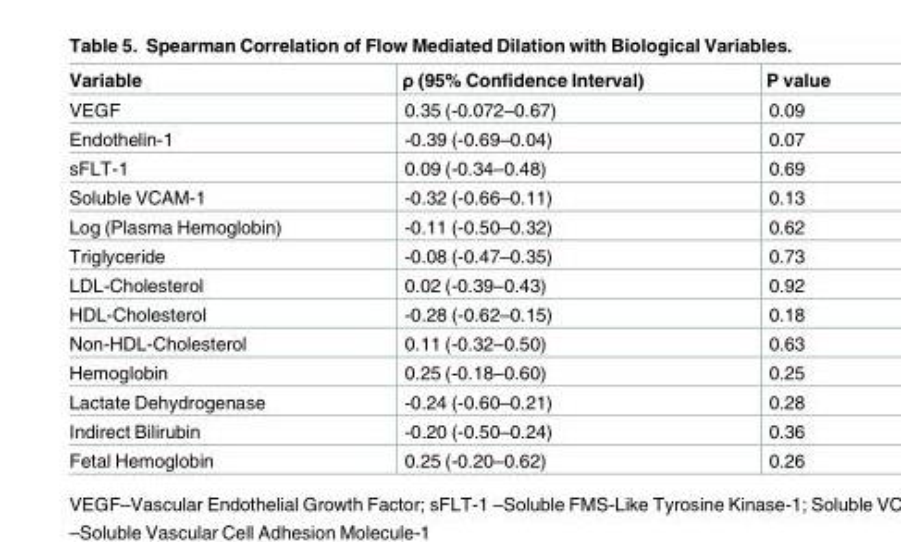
<table><thead><tr><td>Variable</td><td>ρ (95% Confidence Interval)</td><td>P value</td></tr></thead><tbody><tr><td>VEGF</td><td>0.35 (-0.072–0.67)</td><td>0.09</td></tr><tr><td>Endothelin-1</td><td>-0.39 (-0.69–0.04)</td><td>0.07</td></tr><tr><td>sFLT-1</td><td>0.09 (-0.34–0.48)</td><td>0.69</td></tr><tr><td>Soluble VCAM-1</td><td>-0.32 (-0.66–0.11)</td><td>0.13</td></tr><tr><td>Log (Plasma Hemoglobin)</td><td>-0.11 (-0.50–0.32)</td><td>0.62</td></tr><tr><td>Triglyceride</td><td>-0.08 (-0.47–0.35)</td><td>0.73</td></tr><tr><td>LDL-Cholesterol</td><td>0.02 (-0.39–0.43)</td><td>0.92</td></tr><tr><td>HDL-Cholesterol</td><td>-0.28 (-0.62–0.15)</td><td>0.18</td></tr><tr><td>Non-HDL-Cholesterol</td><td>0.11 (-0.32–0.50)</td><td>0.63</td></tr><tr><td>Hemoglobin</td><td>0.25 (-0.18–0.60)</td><td>0.25</td></tr><tr><td>Lactate Dehydrogenase</td><td>-0.24 (-0.60–0.21)</td><td>0.28</td></tr><tr><td>Indirect Bilirubin</td><td>-0.20 (-0.50–0.24)</td><td>0.36</td></tr><tr><td>Fetal Hemoglobin</td><td>0.25 (-0.20–0.62)</td><td>0.26</td></tr></tbody></table>